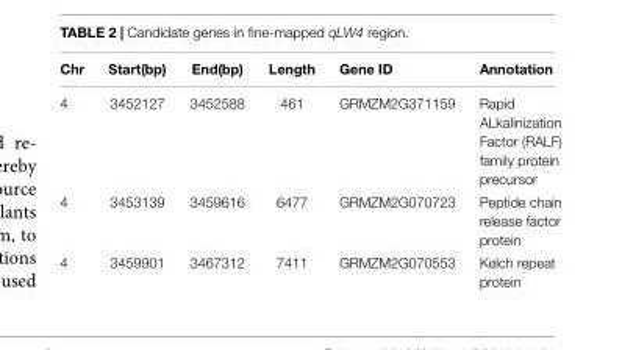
<table><thead><tr><td>Chr</td><td>Start(bp)</td><td>End(bp)</td><td>Length</td><td>Gene ID</td><td>Annotation</td></tr></thead><tbody><tr><td>4</td><td>3452127</td><td>3452588</td><td>461</td><td>GRMZM2G371159</td><td>Rapid ALkalinization Factor (RALF) family protein precursor</td></tr><tr><td>4</td><td>3453139</td><td>3459616</td><td>6477</td><td>GRMZM2G070723</td><td>Peptide chain release factor protein</td></tr><tr><td>4</td><td>3459901</td><td>3467312</td><td>7411</td><td>GRMZM2G070553</td><td>Kelch repeat protein</td></tr></tbody></table>